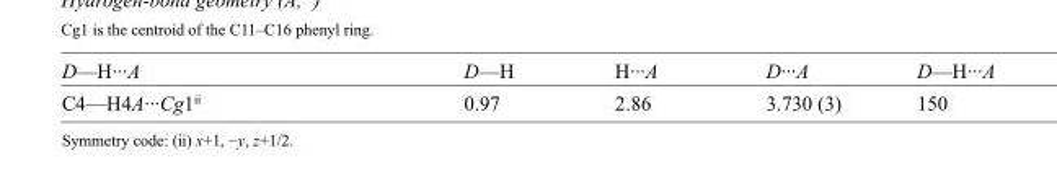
<table><tbody><tr><td>D—H···A</td><td>D—H</td><td>H···A</td><td>D···A</td><td>D—H···A</td></tr><tr><td>C4—H4A···Cg1<sup>ii</sup></td><td>0.97</td><td>2.86</td><td>3.730 (3)</td><td>150</td></tr></tbody></table>